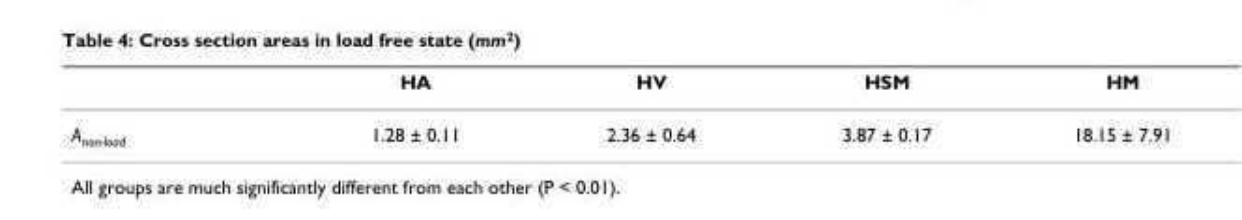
<table><thead><tr><td></td><td>HA</td><td>HV</td><td>HSM</td><td>HM</td></tr></thead><tbody><tr><td>A<sub>non-load</sub></td><td>1.28 ± 0.11</td><td>2.36 ± 0.64</td><td>3.87 ± 0.17</td><td>18.15 ± 7.91</td></tr></tbody></table>